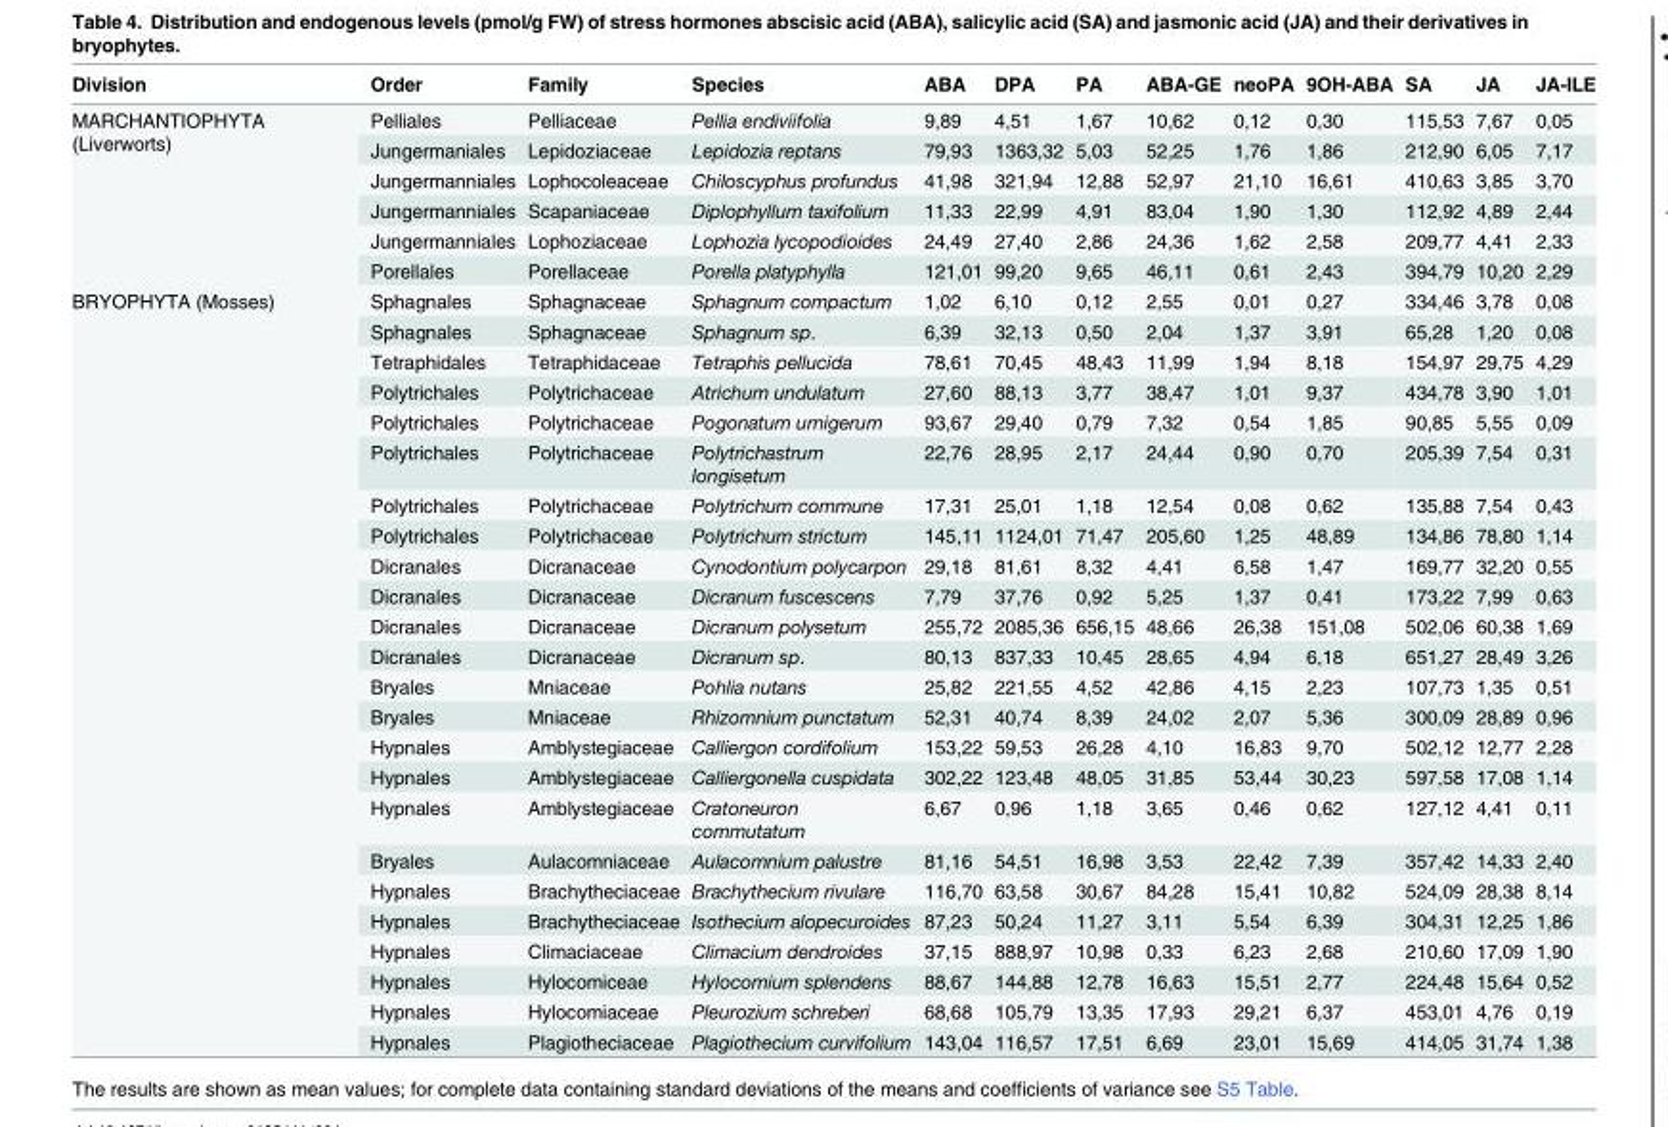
<table><thead><tr><td>Division</td><td>Order</td><td>Family</td><td>Species</td><td>ABA</td><td>DPA</td><td>PA</td><td>ABA-GE</td><td>neoPA</td><td>9OH-ABA</td><td>SA</td><td>JA</td><td>JA-ILE</td></tr></thead><tbody><tr><td rowspan="6">MARCHANTIOPHYTA (Liverworts)</td><td>Pelliales</td><td>Pelliaceae</td><td>Pellia endiviifolia</td><td>9,89</td><td>4,51</td><td>1,67</td><td>10,62</td><td>0,12</td><td>0,30</td><td>115,53</td><td>7,67</td><td>0,05</td></tr><tr><td>Jungermaniales</td><td>Lepidoziaceae</td><td>Lepidozia reptans</td><td>79,93</td><td>1363,32</td><td>5,03</td><td>52,25</td><td>1,76</td><td>1,86</td><td>212,90</td><td>6,05</td><td>7,17</td></tr><tr><td>Jungermanniales</td><td>Lophocoleaceae</td><td>Chiloscyphus profundus</td><td>41,98</td><td>321,94</td><td>12,88</td><td>52,97</td><td>21,10</td><td>16,61</td><td>410,63</td><td>3,85</td><td>3,70</td></tr><tr><td>Jungermanniales</td><td>Scapaniaceae</td><td>Diplophyllum taxifolium</td><td>11,33</td><td>22,99</td><td>4,91</td><td>83,04</td><td>1,90</td><td>1,30</td><td>112,92</td><td>4,89</td><td>2,44</td></tr><tr><td>Jungermanniales</td><td>Lophoziaceae</td><td>Lophozia lycopodioides</td><td>24,49</td><td>27,40</td><td>2,86</td><td>24,36</td><td>1,62</td><td>2,58</td><td>209,77</td><td>4,41</td><td>2,33</td></tr><tr><td>Porellales</td><td>Porellaceae</td><td>Porella platyphylla</td><td>121,01</td><td>99,20</td><td>9,65</td><td>46,11</td><td>0,61</td><td>2,43</td><td>394,79</td><td>10,20</td><td>2,29</td></tr><tr><td rowspan="24">BRYOPHYTA (Mosses)</td><td>Sphagnales</td><td>Sphagnaceae</td><td>Sphagnum compactum</td><td>1,02</td><td>6,10</td><td>0,12</td><td>2,55</td><td>0,01</td><td>0,27</td><td>334,46</td><td>3,78</td><td>0,08</td></tr><tr><td>Sphagnales</td><td>Sphagnaceae</td><td>Sphagnum sp.</td><td>6,39</td><td>32,13</td><td>0,50</td><td>2,04</td><td>1,37</td><td>3,91</td><td>65,28</td><td>1,20</td><td>0,08</td></tr><tr><td>Tetraphidales</td><td>Tetraphidaceae</td><td>Tetraphis pellucida</td><td>78,61</td><td>70,45</td><td>48,43</td><td>11,99</td><td>1,94</td><td>8,18</td><td>154,97</td><td>29,75</td><td>4,29</td></tr><tr><td>Polytrichales</td><td>Polytrichaceae</td><td>Atrichum undulatum</td><td>27,60</td><td>88,13</td><td>3,77</td><td>38,47</td><td>1,01</td><td>9,37</td><td>434,78</td><td>3,90</td><td>1,01</td></tr><tr><td>Polytrichales</td><td>Polytrichaceae</td><td>Pogonatum urnigerum</td><td>93,67</td><td>29,40</td><td>0,79</td><td>7,32</td><td>0,54</td><td>1,85</td><td>90,85</td><td>5,55</td><td>0,09</td></tr><tr><td>Polytrichales</td><td>Polytrichaceae</td><td>Polytrichastrum longisetum</td><td>22,76</td><td>28,95</td><td>2,17</td><td>24,44</td><td>0,90</td><td>0,70</td><td>205,39</td><td>7,54</td><td>0,31</td></tr><tr><td>Polytrichales</td><td>Polytrichaceae</td><td>Polytrichum commune</td><td>17,31</td><td>25,01</td><td>1,18</td><td>12,54</td><td>0,08</td><td>0,62</td><td>135,88</td><td>7,54</td><td>0,43</td></tr><tr><td>Polytrichales</td><td>Polytrichaceae</td><td>Polytrichum strictum</td><td>145,11</td><td>1124,01</td><td>71,47</td><td>205,60</td><td>1,25</td><td>48,89</td><td>134,86</td><td>78,80</td><td>1,14</td></tr><tr><td>Dicranales</td><td>Dicranaceae</td><td>Cynodontium polycarpon</td><td>29,18</td><td>81,61</td><td>8,32</td><td>4,41</td><td>6,58</td><td>1,47</td><td>169,77</td><td>32,20</td><td>0,55</td></tr><tr><td>Dicranales</td><td>Dicranaceae</td><td>Dicranum fuscescens</td><td>7,79</td><td>37,76</td><td>0,92</td><td>5,25</td><td>1,37</td><td>0,41</td><td>173,22</td><td>7,99</td><td>0,63</td></tr><tr><td>Dicranales</td><td>Dicranaceae</td><td>Dicranum polysetum</td><td>255,72</td><td>2085,36</td><td>656,15</td><td>48,66</td><td>26,38</td><td>151,08</td><td>502,06</td><td>60,38</td><td>1,69</td></tr><tr><td>Dicranales</td><td>Dicranaceae</td><td>Dicranum sp.</td><td>80,13</td><td>837,33</td><td>10,45</td><td>28,65</td><td>4,94</td><td>6,18</td><td>651,27</td><td>28,49</td><td>3,26</td></tr><tr><td>Bryales</td><td>Mniaceae</td><td>Pohlia nutans</td><td>25,82</td><td>221,55</td><td>4,52</td><td>42,86</td><td>4,15</td><td>2,23</td><td>107,73</td><td>1,35</td><td>0,51</td></tr><tr><td>Bryales</td><td>Mniaceae</td><td>Rhizomnium punctatum</td><td>52,31</td><td>40,74</td><td>8,39</td><td>24,02</td><td>2,07</td><td>5,36</td><td>300,09</td><td>28,89</td><td>0,96</td></tr><tr><td>Hypnales</td><td>Amblystegiaceae</td><td>Calliergon cordifolium</td><td>153,22</td><td>59,53</td><td>26,28</td><td>4,10</td><td>16,83</td><td>9,70</td><td>502,12</td><td>12,77</td><td>2,28</td></tr><tr><td>Hypnales</td><td>Amblystegiaceae</td><td>Calliergonella cuspidata</td><td>302,22</td><td>123,48</td><td>48,05</td><td>31,85</td><td>53,44</td><td>30,23</td><td>597,58</td><td>17,08</td><td>1,14</td></tr><tr><td>Hypnales</td><td>Amblystegiaceae</td><td>Cratoneuron commutatum</td><td>6,67</td><td>0,96</td><td>1,18</td><td>3,65</td><td>0,46</td><td>0,62</td><td>127,12</td><td>4,41</td><td>0,11</td></tr><tr><td>Bryales</td><td>Aulacomniaceae</td><td>Aulacomnium palustre</td><td>81,16</td><td>54,51</td><td>16,98</td><td>3,53</td><td>22,42</td><td>7,39</td><td>357,42</td><td>14,33</td><td>2,40</td></tr><tr><td>Hypnales</td><td>Brachytheciaceae</td><td>Brachythecium rivulare</td><td>116,70</td><td>63,58</td><td>30,67</td><td>84,28</td><td>15,41</td><td>10,82</td><td>524,09</td><td>28,38</td><td>8,14</td></tr><tr><td>Hypnales</td><td>Brachytheciaceae</td><td>Isothecium alopecuroides</td><td>87,23</td><td>50,24</td><td>11,27</td><td>3,11</td><td>5,54</td><td>6,39</td><td>304,31</td><td>12,25</td><td>1,86</td></tr><tr><td>Hypnales</td><td>Climaciaceae</td><td>Climacium dendroides</td><td>37,15</td><td>888,97</td><td>10,98</td><td>0,33</td><td>6,23</td><td>2,68</td><td>210,60</td><td>17,09</td><td>1,90</td></tr><tr><td>Hypnales</td><td>Hylocomiceae</td><td>Hylocomium splendens</td><td>88,67</td><td>144,88</td><td>12,78</td><td>16,63</td><td>15,51</td><td>2,77</td><td>224,48</td><td>15,64</td><td>0,52</td></tr><tr><td>Hypnales</td><td>Hylocomiaceae</td><td>Pleurozium schreberi</td><td>68,68</td><td>105,79</td><td>13,35</td><td>17,93</td><td>29,21</td><td>6,37</td><td>453,01</td><td>4,76</td><td>0,19</td></tr><tr><td>Hypnales</td><td>Plagiotheciaceae</td><td>Plagiothecium curvifolium</td><td>143,04</td><td>116,57</td><td>17,51</td><td>6,69</td><td>23,01</td><td>15,69</td><td>414,05</td><td>31,74</td><td>1,38</td></tr></tbody></table>